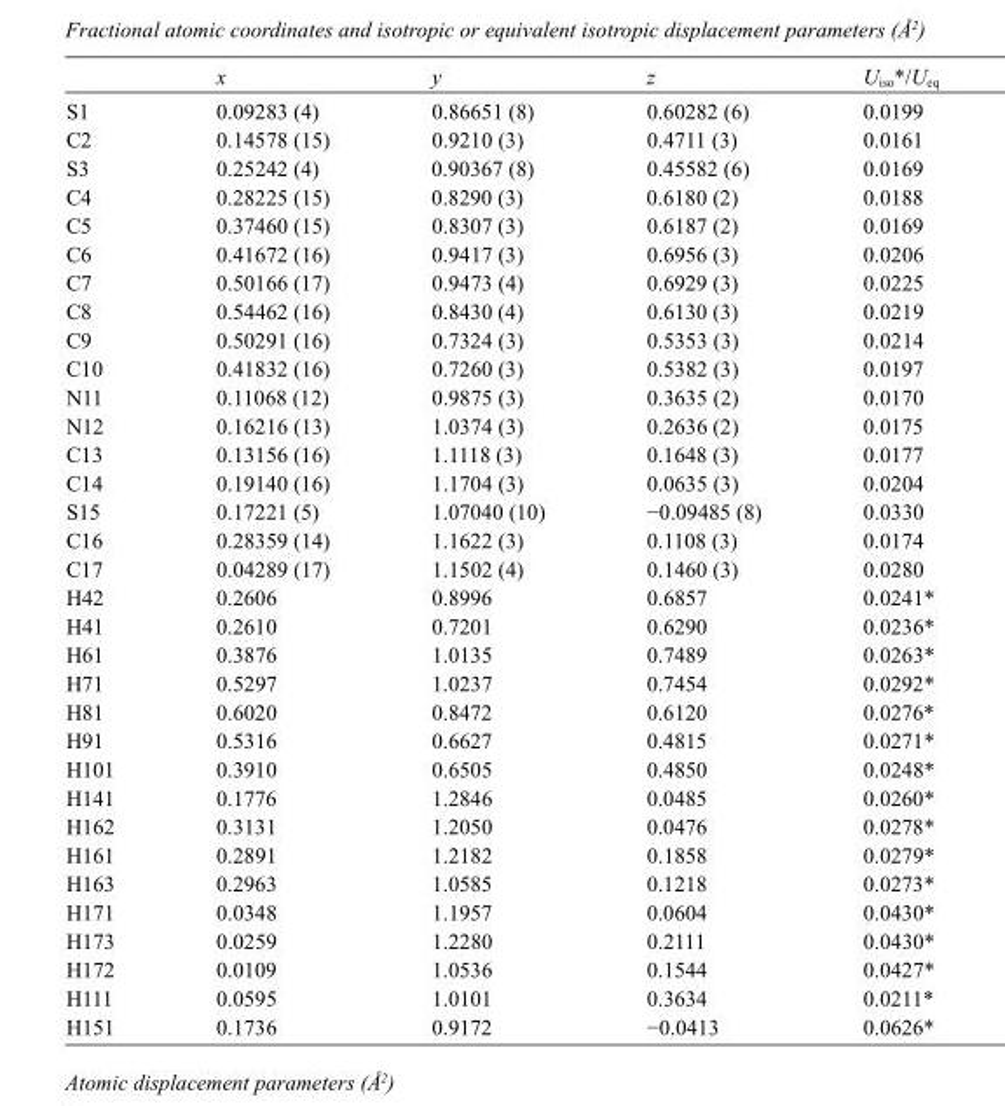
<table><thead><tr><td></td><td>x</td><td>y</td><td>z</td><td>U<sub>iso</sub>*/U<sub>eq</sub></td></tr></thead><tbody><tr><td>S1</td><td>0.09283 (4)</td><td>0.86651 (8)</td><td>0.60282 (6)</td><td>0.0199</td></tr><tr><td>C2</td><td>0.14578 (15)</td><td>0.9210 (3)</td><td>0.4711 (3)</td><td>0.0161</td></tr><tr><td>S3</td><td>0.25242 (4)</td><td>0.90367 (8)</td><td>0.45582 (6)</td><td>0.0169</td></tr><tr><td>C4</td><td>0.28225 (15)</td><td>0.8290 (3)</td><td>0.6180 (2)</td><td>0.0188</td></tr><tr><td>C5</td><td>0.37460 (15)</td><td>0.8307 (3)</td><td>0.6187 (2)</td><td>0.0169</td></tr><tr><td>C6</td><td>0.41672 (16)</td><td>0.9417 (3)</td><td>0.6956 (3)</td><td>0.0206</td></tr><tr><td>C7</td><td>0.50166 (17)</td><td>0.9473 (4)</td><td>0.6929 (3)</td><td>0.0225</td></tr><tr><td>C8</td><td>0.54462 (16)</td><td>0.8430 (4)</td><td>0.6130 (3)</td><td>0.0219</td></tr><tr><td>C9</td><td>0.50291 (16)</td><td>0.7324 (3)</td><td>0.5353 (3)</td><td>0.0214</td></tr><tr><td>C10</td><td>0.41832 (16)</td><td>0.7260 (3)</td><td>0.5382 (3)</td><td>0.0197</td></tr><tr><td>N11</td><td>0.11068 (12)</td><td>0.9875 (3)</td><td>0.3635 (2)</td><td>0.0170</td></tr><tr><td>N12</td><td>0.16216 (13)</td><td>1.0374 (3)</td><td>0.2636 (2)</td><td>0.0175</td></tr><tr><td>C13</td><td>0.13156 (16)</td><td>1.1118 (3)</td><td>0.1648 (3)</td><td>0.0177</td></tr><tr><td>C14</td><td>0.19140 (16)</td><td>1.1704 (3)</td><td>0.0635 (3)</td><td>0.0204</td></tr><tr><td>S15</td><td>0.17221 (5)</td><td>1.07040 (10)</td><td>−0.09485 (8)</td><td>0.0330</td></tr><tr><td>C16</td><td>0.28359 (14)</td><td>1.1622 (3)</td><td>0.1108 (3)</td><td>0.0174</td></tr><tr><td>C17</td><td>0.04289 (17)</td><td>1.1502 (4)</td><td>0.1460 (3)</td><td>0.0280</td></tr><tr><td>H42</td><td>0.2606</td><td>0.8996</td><td>0.6857</td><td>0.0241*</td></tr><tr><td>H41</td><td>0.2610</td><td>0.7201</td><td>0.6290</td><td>0.0236*</td></tr><tr><td>H61</td><td>0.3876</td><td>1.0135</td><td>0.7489</td><td>0.0263*</td></tr><tr><td>H71</td><td>0.5297</td><td>1.0237</td><td>0.7454</td><td>0.0292*</td></tr><tr><td>H81</td><td>0.6020</td><td>0.8472</td><td>0.6120</td><td>0.0276*</td></tr><tr><td>H91</td><td>0.5316</td><td>0.6627</td><td>0.4815</td><td>0.0271*</td></tr><tr><td>H101</td><td>0.3910</td><td>0.6505</td><td>0.4850</td><td>0.0248*</td></tr><tr><td>H141</td><td>0.1776</td><td>1.2846</td><td>0.0485</td><td>0.0260*</td></tr><tr><td>H162</td><td>0.3131</td><td>1.2050</td><td>0.0476</td><td>0.0278*</td></tr><tr><td>H161</td><td>0.2891</td><td>1.2182</td><td>0.1858</td><td>0.0279*</td></tr><tr><td>H163</td><td>0.2963</td><td>1.0585</td><td>0.1218</td><td>0.0273*</td></tr><tr><td>H171</td><td>0.0348</td><td>1.1957</td><td>0.0604</td><td>0.0430*</td></tr><tr><td>H173</td><td>0.0259</td><td>1.2280</td><td>0.2111</td><td>0.0430*</td></tr><tr><td>H172</td><td>0.0109</td><td>1.0536</td><td>0.1544</td><td>0.0427*</td></tr><tr><td>H111</td><td>0.0595</td><td>1.0101</td><td>0.3634</td><td>0.0211*</td></tr><tr><td>H151</td><td>0.1736</td><td>0.9172</td><td>−0.0413</td><td>0.0626*</td></tr></tbody></table>